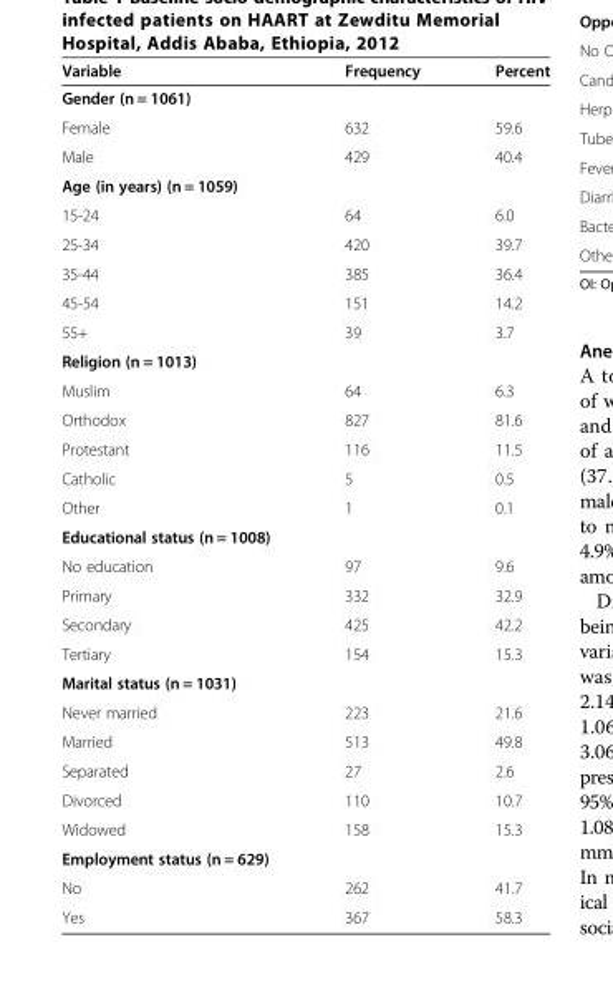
<table><thead><tr><td>Variable</td><td>Frequency</td><td>Percent</td></tr></thead><tbody><tr><td colspan="3">Gender (n = 1061)</td></tr><tr><td>Female</td><td>632</td><td>59.6</td></tr><tr><td>Male</td><td>429</td><td>40.4</td></tr><tr><td colspan="3">Age (in years) (n = 1059)</td></tr><tr><td>15-24</td><td>64</td><td>6.0</td></tr><tr><td>25-34</td><td>420</td><td>39.7</td></tr><tr><td>35-44</td><td>385</td><td>36.4</td></tr><tr><td>45-54</td><td>151</td><td>14.2</td></tr><tr><td>55+</td><td>39</td><td>3.7</td></tr><tr><td colspan="3">Religion (n = 1013)</td></tr><tr><td>Muslim</td><td>64</td><td>6.3</td></tr><tr><td>Orthodox</td><td>827</td><td>81.6</td></tr><tr><td>Protestant</td><td>116</td><td>11.5</td></tr><tr><td>Catholic</td><td>5</td><td>0.5</td></tr><tr><td>Other</td><td>1</td><td>0.1</td></tr><tr><td colspan="3">Educational status (n = 1008)</td></tr><tr><td>No education</td><td>97</td><td>9.6</td></tr><tr><td>Primary</td><td>332</td><td>32.9</td></tr><tr><td>Secondary</td><td>425</td><td>42.2</td></tr><tr><td>Tertiary</td><td>154</td><td>15.3</td></tr><tr><td colspan="3">Marital status (n = 1031)</td></tr><tr><td>Never married</td><td>223</td><td>21.6</td></tr><tr><td>Married</td><td>513</td><td>49.8</td></tr><tr><td>Separated</td><td>27</td><td>2.6</td></tr><tr><td>Divorced</td><td>110</td><td>10.7</td></tr><tr><td>Widowed</td><td>158</td><td>15.3</td></tr><tr><td colspan="3">Employment status (n = 629)</td></tr><tr><td>No</td><td>262</td><td>41.7</td></tr><tr><td>Yes</td><td>367</td><td>58.3</td></tr></tbody></table>